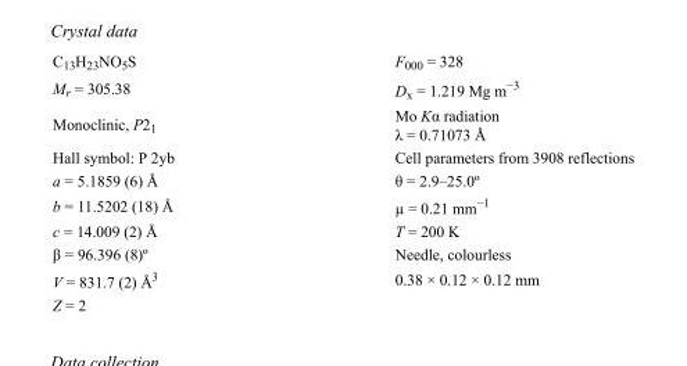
<table><tbody><tr><td>C<sub>13</sub>H<sub>23</sub>NO<sub>5</sub>S</td><td>F000 = 328</td></tr><tr><td>M<sub>r</sub> = 305.38</td><td>D<sub>x</sub> = 1.219 Mg m<sup>−3</sup></td></tr><tr><td>Monoclinic, P2<sub>1</sub></td><td>Mo Kα radiation λ = 0.71073 Å</td></tr><tr><td>Hall symbol: P 2yb</td><td>Cell parameters from 3908 reflections</td></tr><tr><td>a = 5.1859 (6) Å</td><td>θ = 2.9–25.0º</td></tr><tr><td>b = 11.5202 (18) Å</td><td>µ = 0.21 mm<sup>−1</sup></td></tr><tr><td>c = 14.009 (2) Å</td><td>T = 200 K</td></tr><tr><td>β = 96.396 (8)º</td><td>Needle, colourless</td></tr><tr><td>V = 831.7 (2) Å<sup>3</sup></td><td>0.38 × 0.12 × 0.12 mm</td></tr><tr><td>Z = 2</td><td></td></tr></tbody></table>